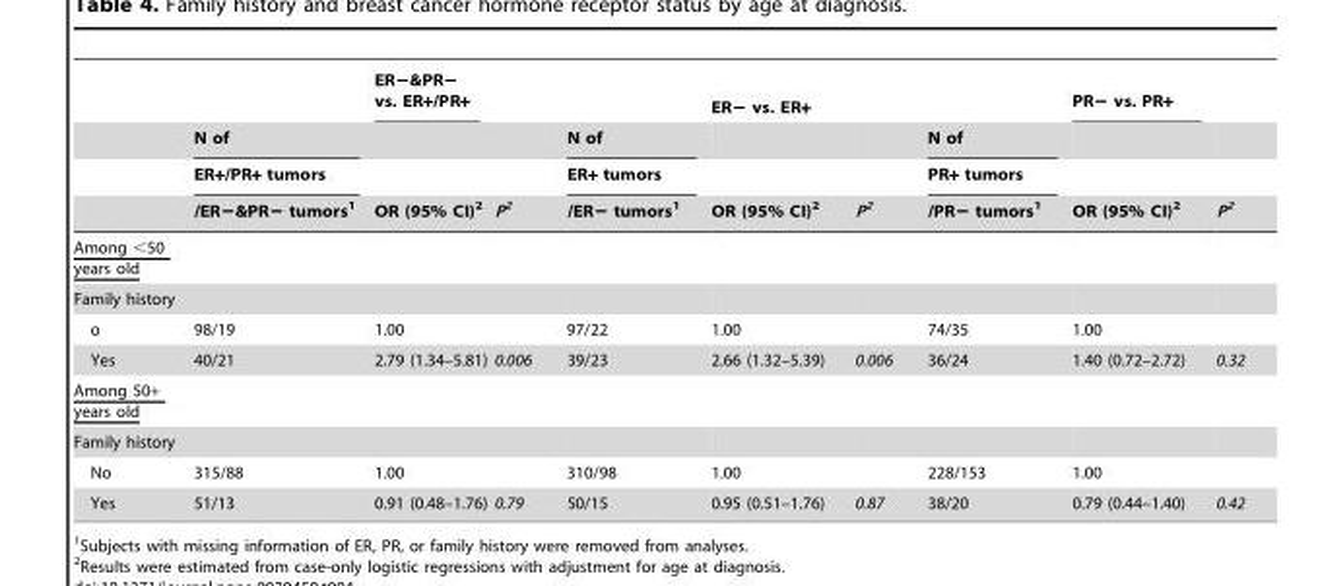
<table><thead><tr><td rowspan="4"></td><td rowspan="4">N of ER+/PR+ tumors /ER−&amp;PR− tumors<sup>1</sup></td><td rowspan="4">ER−&amp;PR− vs. ER+/PR+ OR (95% CI)<sup>2</sup></td><td rowspan="4">P2</td><td rowspan="4">N of ER+ tumors /ER− tumors<sup>1</sup></td><td rowspan="4">ER− vs. ER+ OR (95% CI)<sup>2</sup></td><td rowspan="4">P2</td><td rowspan="4">N of PR+ tumors /PR− tumors<sup>1</sup></td><td rowspan="4">PR− vs. PR+ OR (95% CI)<sup>2</sup></td><td rowspan="4">P2</td></tr><tr></tr><tr></tr><tr></tr></thead><tbody><tr><td colspan="10">Among &lt;50 years old</td></tr><tr><td colspan="10">Family history</td></tr><tr><td>o</td><td>98/19</td><td>1.00</td><td></td><td>97/22</td><td>1.00</td><td></td><td>74/35</td><td>1.00</td><td></td></tr><tr><td>Yes</td><td>40/21</td><td>2.79 (1.34–5.81)</td><td>0.006</td><td>39/23</td><td>2.66 (1.32–5.39)</td><td>0.006</td><td>36/24</td><td>1.40 (0.72–2.72)</td><td>0.32</td></tr><tr><td colspan="10">Among 50+ years old</td></tr><tr><td colspan="10">Family history</td></tr><tr><td>No</td><td>315/88</td><td>1.00</td><td></td><td>310/98</td><td>1.00</td><td></td><td>228/153</td><td>1.00</td><td></td></tr><tr><td>Yes</td><td>51/13</td><td>0.91 (0.48–1.76)</td><td>0.79</td><td>50/15</td><td>0.95 (0.51–1.76)</td><td>0.87</td><td>38/20</td><td>0.79 (0.44–1.40)</td><td>0.42</td></tr></tbody></table>